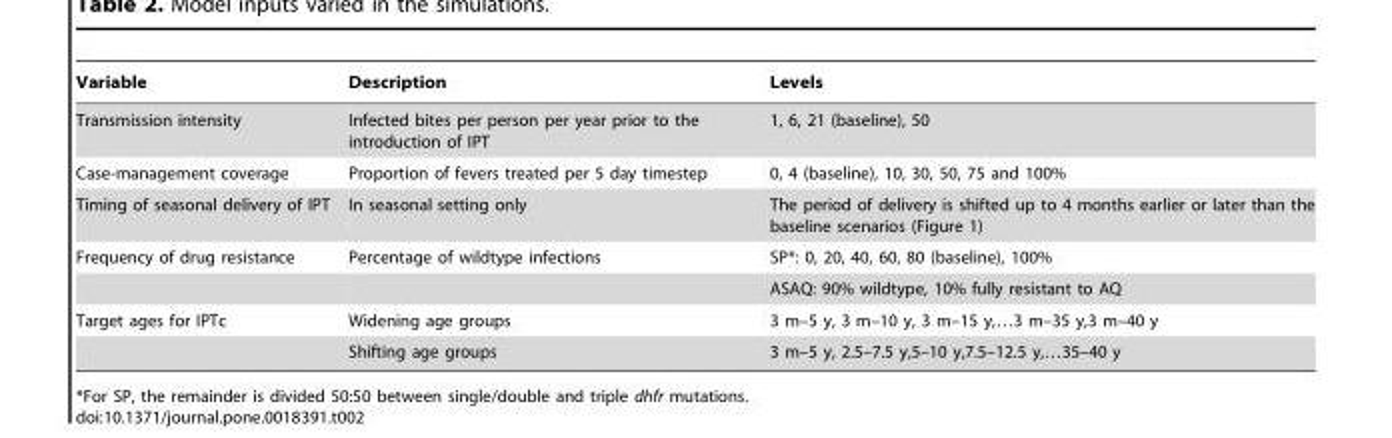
<table><thead><tr><td>Variable</td><td>Description</td><td>Levels</td></tr></thead><tbody><tr><td>Transmission intensity</td><td>Infected bites per person per year prior to the introduction of IPT</td><td>1, 6, 21 (baseline), 50</td></tr><tr><td>Case-management coverage</td><td>Proportion of fevers treated per 5 day timestep</td><td>0, 4 (baseline), 10, 30, 50, 75 and 100%</td></tr><tr><td>Timing of seasonal delivery of IPT</td><td>In seasonal setting only</td><td>The period of delivery is shifted up to 4 months earlier or later than the baseline scenarios (Figure 1)</td></tr><tr><td rowspan="2">Frequency of drug resistance</td><td>Percentage of wildtype infections</td><td>SP*: 0, 20, 40, 60, 80 (baseline), 100%</td></tr><tr><td></td><td>ASAQ: 90% wildtype, 10% fully resistant to AQ</td></tr><tr><td rowspan="2">Target ages for IPTc</td><td>Widening age groups</td><td>3 m–5 y, 3 m–10 y, 3 m–15 y,…3 m–35 y,3 m–40 y</td></tr><tr><td>Shifting age groups</td><td>3 m–5 y, 2.5–7.5 y,5–10 y,7.5–12.5 y,…35–40 y</td></tr></tbody></table>